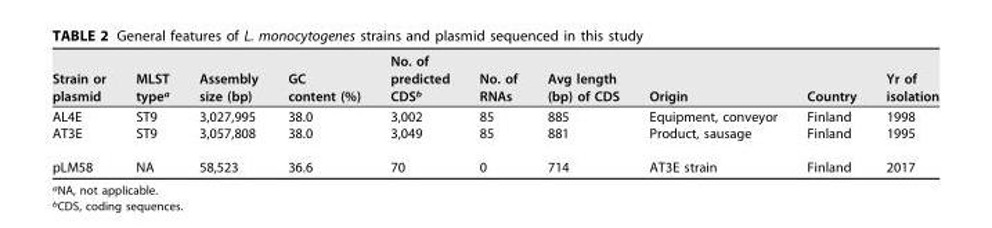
<table><thead><tr><td>Strain or plasmid</td><td>MLST type<sup>a</sup></td><td>Assembly size (bp)</td><td>GC content (%)</td><td>No. of predicted CDS<sup>b</sup></td><td>No. of RNAs</td><td>Avg length (bp) of CDS</td><td>Origin</td><td>Country</td><td>Yr of isolation</td></tr></thead><tbody><tr><td>AL4E</td><td>ST9</td><td>3,027,995</td><td>38.0</td><td>3,002</td><td>85</td><td>885</td><td>Equipment, conveyor</td><td>Finland</td><td>1998</td></tr><tr><td>AT3E</td><td>ST9</td><td>3,057,808</td><td>38.0</td><td>3,049</td><td>85</td><td>881</td><td>Product, sausage</td><td>Finland</td><td>1995</td></tr><tr><td>pLM58</td><td>NA</td><td>58,523</td><td>36.6</td><td>70</td><td>0</td><td>714</td><td>AT3E strain</td><td>Finland</td><td>2017</td></tr></tbody></table>